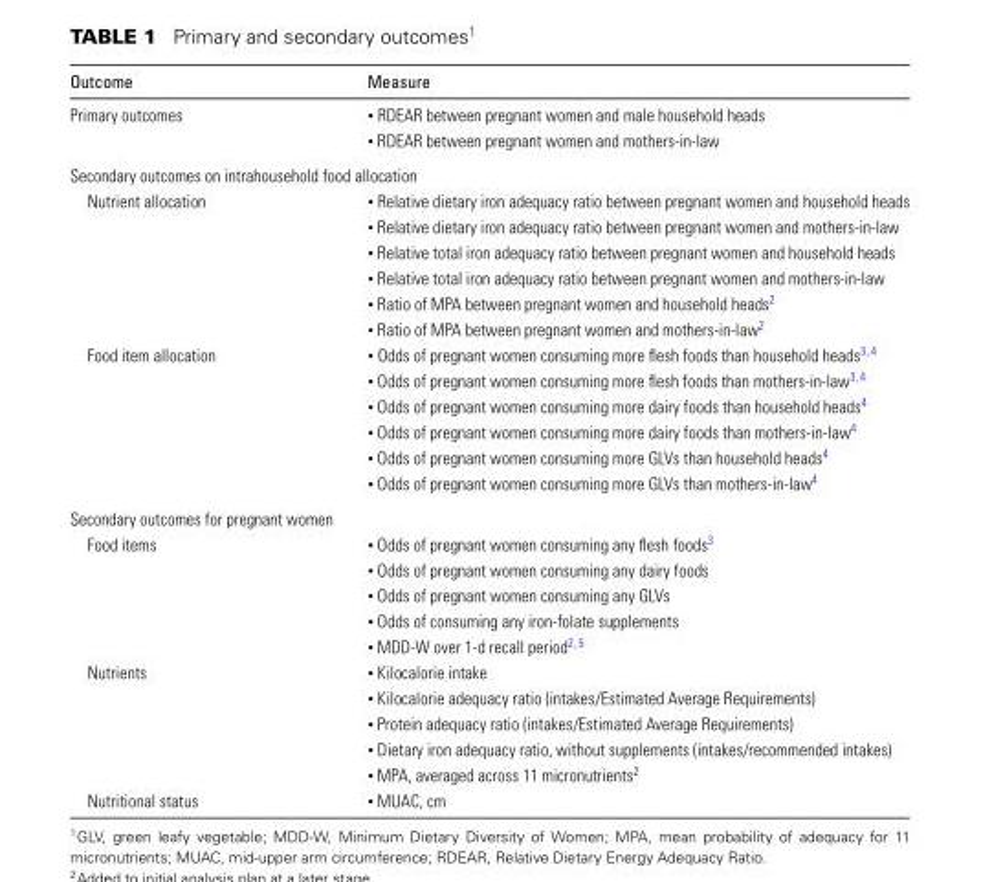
<table><thead><tr><td>Outcome</td><td>Measure</td></tr></thead><tbody><tr><td rowspan="2">Primary outcomes</td><td>• RDEAR between pregnant women and male household heads</td></tr><tr><td>• RDEAR between pregnant women and mothers-in-law</td></tr><tr><td colspan="2">Secondary outcomes on intrahousehold food allocation</td></tr><tr><td rowspan="6">Nutrient allocation</td><td>• Relative dietary iron adequacy ratio between pregnant women and household heads</td></tr><tr><td>• Relative dietary iron adequacy ratio between pregnant women and mothers-in-law</td></tr><tr><td>• Relative total iron adequacy ratio between pregnant women and household heads</td></tr><tr><td>• Relative total iron adequacy ratio between pregnant women and mothers-in-law</td></tr><tr><td>• Ratio of MPA between pregnant women and household heads<sup>2</sup></td></tr><tr><td>• Ratio of MPA between pregnant women and mothers-in-law<sup>2</sup></td></tr><tr><td rowspan="6">Food item allocation</td><td>• Odds of pregnant women consuming more flesh foods than household heads<sup>3</sup>,<sup>4</sup></td></tr><tr><td>• Odds of pregnant women consuming more flesh foods than mothers-in-law<sup>3</sup>,<sup>4</sup></td></tr><tr><td>• Odds of pregnant women consuming more dairy foods than household heads<sup>4</sup></td></tr><tr><td>• Odds of pregnant women consuming more dairy foods than mothers-in-law<sup>4</sup></td></tr><tr><td>• Odds of pregnant women consuming more GLVs than household heads<sup>4</sup></td></tr><tr><td>• Odds of pregnant women consuming more GLVs than mothers-in-law<sup>4</sup></td></tr><tr><td colspan="2">Secondary outcomes for pregnant women</td></tr><tr><td rowspan="5">Food items</td><td>• Odds of pregnant women consuming any flesh foods<sup>3</sup></td></tr><tr><td>• Odds of pregnant women consuming any dairy foods</td></tr><tr><td>• Odds of pregnant women consuming any GLVs</td></tr><tr><td>• Odds of consuming any iron-folate supplements</td></tr><tr><td>• MDD-W over 1-d recall period<sup>2</sup>,<sup>5</sup></td></tr><tr><td rowspan="5">Nutrients</td><td>• Kilocalorie intake</td></tr><tr><td>• Kilocalorie adequacy ratio (intakes/Estimated Average Requirements)</td></tr><tr><td>• Protein adequacy ratio (intakes/Estimated Average Requirements)</td></tr><tr><td>• Dietary iron adequacy ratio, without supplements (intakes/recommended intakes)</td></tr><tr><td>• MPA, averaged across 11 micronutrients<sup>2</sup></td></tr><tr><td>Nutritional status</td><td>• MUAC, cm</td></tr></tbody></table>